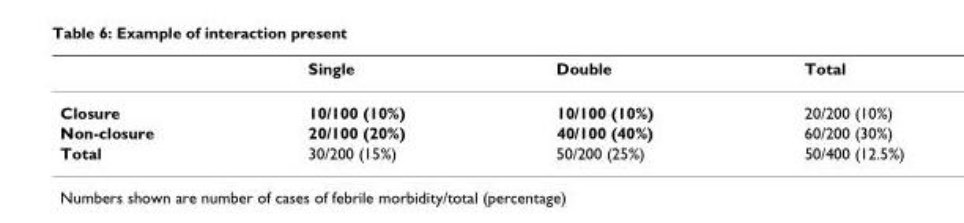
<table><thead><tr><td></td><td>Single</td><td>Double</td><td>Total</td></tr></thead><tbody><tr><td>Closure</td><td>10/100 (10%)</td><td>10/100 (10%)</td><td>20/200 (10%)</td></tr><tr><td>Non-closure</td><td>20/100 (20%)</td><td>40/100 (40%)</td><td>60/200 (30%)</td></tr><tr><td>Total</td><td>30/200 (15%)</td><td>50/200 (25%)</td><td>50/400 (12.5%)</td></tr></tbody></table>